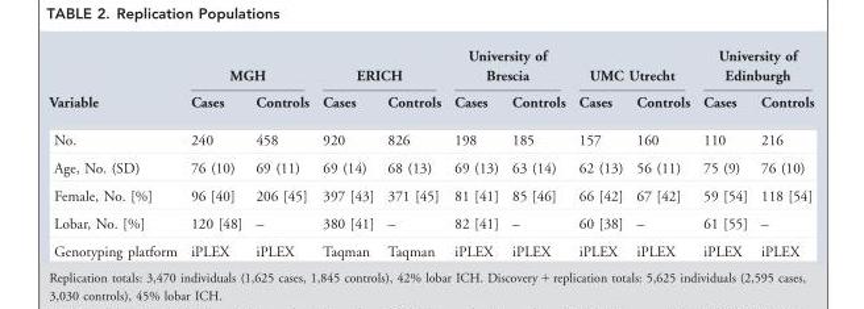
<table><thead><tr><td rowspan="2">Variable</td><td colspan="2">MGH</td><td colspan="2">ERICH</td><td colspan="2">University of Brescia</td><td colspan="2">UMC Utrecht</td><td colspan="2">University of Edinburgh</td></tr><tr><td>Cases</td><td>Controls</td><td>Cases</td><td>Controls</td><td>Cases</td><td>Controls</td><td>Cases</td><td>Controls</td><td>Cases</td><td>Controls</td></tr></thead><tbody><tr><td>No.</td><td>240</td><td>458</td><td>920</td><td>826</td><td>198</td><td>185</td><td>157</td><td>160</td><td>110</td><td>216</td></tr><tr><td>Age, No. (SD)</td><td>76 (10)</td><td>69 (11)</td><td>69 (14)</td><td>68 (13)</td><td>69 (13)</td><td>63 (14)</td><td>62 (13)</td><td>56 (11)</td><td>75 (9)</td><td>76 (10)</td></tr><tr><td>Female, No. [%]</td><td>96 [40]</td><td>206 [45]</td><td>397 [43]</td><td>371 [45]</td><td>81 [41]</td><td>85 [46]</td><td>66 [42]</td><td>67 [42]</td><td>59 [54]</td><td>118 [54]</td></tr><tr><td>Lobar, No. [%]</td><td>120 [48]</td><td>–</td><td>380 [41]</td><td>–</td><td>82 [41]</td><td>–</td><td>60 [38]</td><td>–</td><td>61 [55]</td><td>–</td></tr><tr><td>Genotyping platform</td><td>iPLEX</td><td>iPLEX</td><td>Taqman</td><td>Taqman</td><td>iPLEX</td><td>iPLEX</td><td>iPLEX</td><td>iPLEX</td><td>iPLEX</td><td>iPLEX</td></tr></tbody></table>